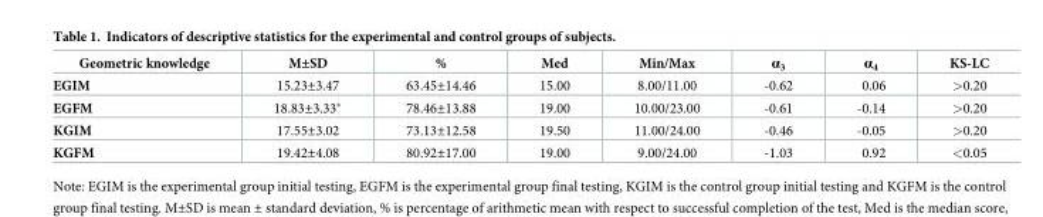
<table><thead><tr><td>Geometric knowledge</td><td>M±SD</td><td>%</td><td>Med</td><td>Min/Max</td><td>α<sub>3</sub></td><td>α<sub>4</sub></td><td>KS-LC</td></tr></thead><tbody><tr><td>EGIM</td><td>15.23±3.47</td><td>63.45±14.46</td><td>15.00</td><td>8.00/11.00</td><td>-0.62</td><td>0.06</td><td>&gt;0.20</td></tr><tr><td>EGFM</td><td>18.83±3.33*</td><td>78.46±13.88</td><td>19.00</td><td>10.00/23.00</td><td>-0.61</td><td>-0.14</td><td>&gt;0.20</td></tr><tr><td>KGIM</td><td>17.55±3.02</td><td>73.13±12.58</td><td>19.50</td><td>11.00/24.00</td><td>-0.46</td><td>-0.05</td><td>&gt;0.20</td></tr><tr><td>KGFM</td><td>19.42±4.08</td><td>80.92±17.00</td><td>19.00</td><td>9.00/24.00</td><td>-1.03</td><td>0.92</td><td>&lt;0.05</td></tr></tbody></table>